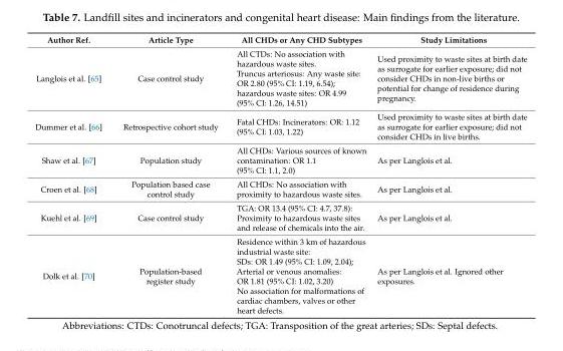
<table><thead><tr><td>Author Ref.</td><td>Article Type</td><td>All CHDs or Any CHD Subtypes</td><td>Study Limitations</td></tr></thead><tbody><tr><td>Langlois et al. [65]</td><td>Case control study</td><td>All CTDs: No association with hazardous waste sites. Truncus arteriosus: Any waste site: OR 2.80 (95% CI: 1.19, 6.54); hazardous waste sites: OR 4.99 (95% CI: 1.26, 14.51)</td><td>Used proximity to waste sites at birth date as surrogate for earlier exposure; did not consider CHDs in non-live births or potential for change of residence during pregnancy.</td></tr><tr><td>Dummer et al. [66]</td><td>Retrospective cohort study</td><td>Fatal CHDs: Incinerators: OR: 1.12 (95% CI: 1.03, 1.22)</td><td>Used proximity to waste sites at birth date as surrogate for earlier exposure; did not consider CHDs in live births.</td></tr><tr><td>Shaw et al. [67]</td><td>Population study</td><td>All CHDs: Various sources of known contamination: OR 1.1 (95% CI: 1.1, 2.0)</td><td>As per Langlois et al.</td></tr><tr><td>Croen et al. [68]</td><td>Population based case control study</td><td>All CHDs: No association with proximity to hazardous waste sites.</td><td>As per Langlois et al.</td></tr><tr><td>Kuehl et al. [69]</td><td>Case control study</td><td>TGA: OR 13.4 (95% CI: 4.7, 37.8): Proximity to hazardous waste sites and release of chemicals into the air.</td><td>As per Langlois et al.</td></tr><tr><td>Dolk et al. [70]</td><td>Population-based register study</td><td>Residence within 3 km of hazardous industrial waste site: SDs: OR 1.49 (95% CI: 1.09, 2.04); Arterial or venous anomalies: OR 1.81 (95% CI: 1.02, 3.20) No association for malformations of cardiac chambers, valves or other heart defects.</td><td>As per Langlois et al. Ignored other exposures.</td></tr></tbody></table>